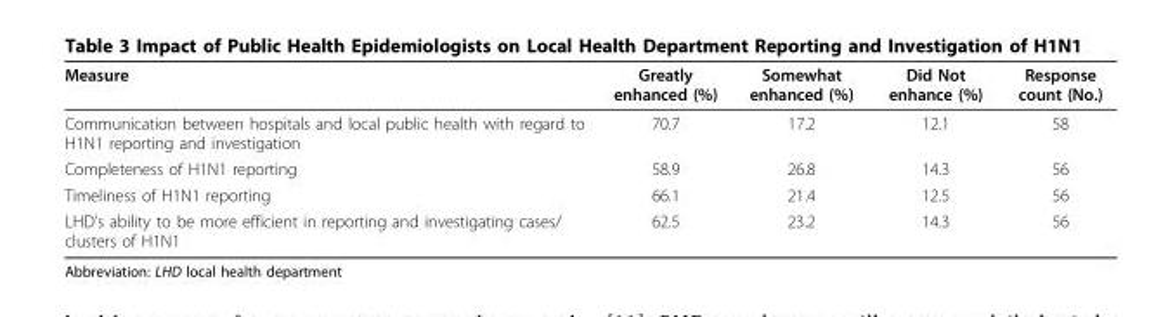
<table><thead><tr><td>Measure</td><td>Greatly enhanced (%)</td><td>Somewhat enhanced (%)</td><td>Did Not enhance (%)</td><td>Response count (No.)</td></tr></thead><tbody><tr><td>Communication between hospitals and local public health with regard to H1N1 reporting and investigation</td><td>70.7</td><td>17.2</td><td>12.1</td><td>58</td></tr><tr><td>Completeness of H1N1 reporting</td><td>58.9</td><td>26.8</td><td>14.3</td><td>56</td></tr><tr><td>Timeliness of H1N1 reporting</td><td>66.1</td><td>21.4</td><td>12.5</td><td>56</td></tr><tr><td>LHD’s ability to be more efficient in reporting and investigating cases/ clusters of H1N1</td><td>62.5</td><td>23.2</td><td>14.3</td><td>56</td></tr></tbody></table>